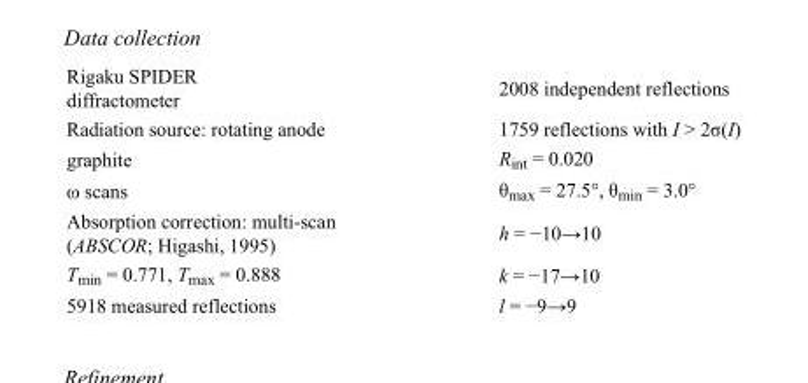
<table><tbody><tr><td>Rigaku SPIDER diffractometer</td><td>2008 independent reflections</td></tr><tr><td>Radiation source: rotating anode</td><td>1759 reflections with I &gt; 2σ(I)</td></tr><tr><td>graphite</td><td>R<sub>int</sub> = 0.020</td></tr><tr><td>ω scans</td><td>θ<sub>max</sub> = 27.5°, θ<sub>min</sub> = 3.0°</td></tr><tr><td>Absorption correction: multi-scan (ABSCOR; Higashi, 1995)</td><td>h = −10→10</td></tr><tr><td>T<sub>min</sub> = 0.771, T<sub>max</sub> = 0.888</td><td>k = −17→10</td></tr><tr><td>5918 measured reflections</td><td>l = −9→9</td></tr></tbody></table>